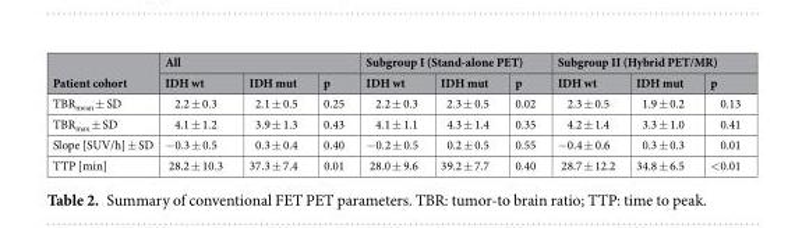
<table><thead><tr><td rowspan="2">Patient cohort</td><td colspan="3">All</td><td colspan="3">Subgroup I (Stand-alone PET)</td><td colspan="3">Subgroup II (Hybrid PET/MR)</td></tr><tr><td>IDH wt</td><td>IDH mut</td><td>p</td><td>IDH wt</td><td>IDH mut</td><td>p</td><td>IDH wt</td><td>IDH mut</td><td>p</td></tr></thead><tbody><tr><td>TBR<sub>mean</sub> ± SD</td><td>2.2 ± 0.3</td><td>2.1 ± 0.5</td><td>0.25</td><td>2.2 ± 0.3</td><td>2.3 ± 0.5</td><td>0.02</td><td>2.3 ± 0.5</td><td>1.9 ± 0.2</td><td>0.13</td></tr><tr><td>TBR<sub>max</sub> ± SD</td><td>4.1 ± 1.2</td><td>3.9 ± 1.3</td><td>0.43</td><td>4.1 ± 1.1</td><td>4.3 ± 1.4</td><td>0.35</td><td>4.2 ± 1.4</td><td>3.3 ± 1.0</td><td>0.41</td></tr><tr><td>Slope [SUV/h] ± SD</td><td>−0.3 ± 0.5</td><td>0.3 ± 0.4</td><td>0.40</td><td>−0.2 ± 0.5</td><td>0.2 ± 0.5</td><td>0.55</td><td>−0.4 ± 0.6</td><td>0.3 ± 0.3</td><td>0.01</td></tr><tr><td>TTP [min]</td><td>28.2 ± 10.3</td><td>37.3 ± 7.4</td><td>0.01</td><td>28.0 ± 9.6</td><td>39.2 ± 7.7</td><td>0.40</td><td>28.7 ± 12.2</td><td>34.8 ± 6.5</td><td>&lt;0.01</td></tr></tbody></table>